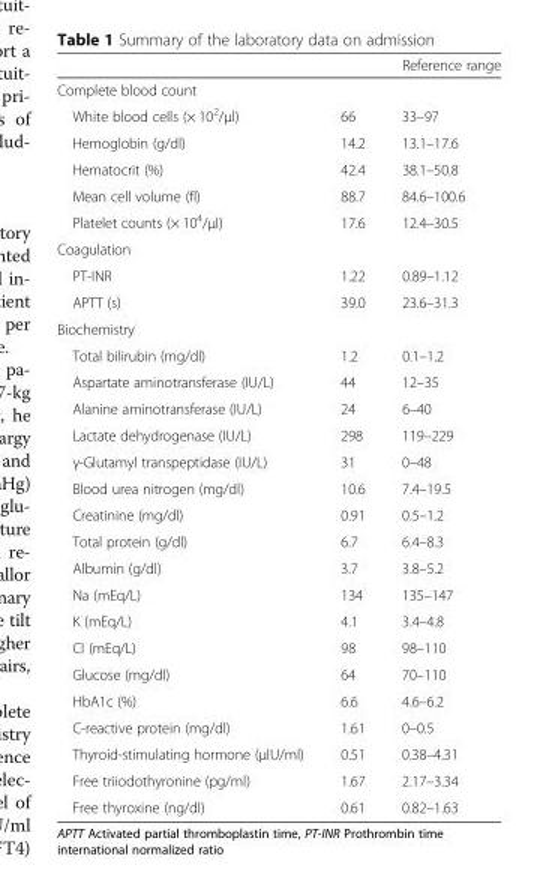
<table><thead><tr><td></td><td></td><td>Reference range</td></tr></thead><tbody><tr><td colspan="3">Complete blood count</td></tr><tr><td>White blood cells (× 10<sup>2</sup>/μl)</td><td>66</td><td>33–97</td></tr><tr><td>Hemoglobin (g/dl)</td><td>14.2</td><td>13.1–17.6</td></tr><tr><td>Hematocrit (%)</td><td>42.4</td><td>38.1–50.8</td></tr><tr><td>Mean cell volume (fl)</td><td>88.7</td><td>84.6–100.6</td></tr><tr><td>Platelet counts (× 10<sup>4</sup>/μl)</td><td>17.6</td><td>12.4–30.5</td></tr><tr><td colspan="3">Coagulation</td></tr><tr><td>PT-INR</td><td>1.22</td><td>0.89–1.12</td></tr><tr><td>APTT (s)</td><td>39.0</td><td>23.6–31.3</td></tr><tr><td colspan="3">Biochemistry</td></tr><tr><td>Total bilirubin (mg/dl)</td><td>1.2</td><td>0.1–1.2</td></tr><tr><td>Aspartate aminotransferase (IU/L)</td><td>44</td><td>12–35</td></tr><tr><td>Alanine aminotransferase (IU/L)</td><td>24</td><td>6–40</td></tr><tr><td>Lactate dehydrogenase (IU/L)</td><td>298</td><td>119–229</td></tr><tr><td>γ-Glutamyl transpeptidase (IU/L)</td><td>31</td><td>0–48</td></tr><tr><td>Blood urea nitrogen (mg/dl)</td><td>10.6</td><td>7.4–19.5</td></tr><tr><td>Creatinine (mg/dl)</td><td>0.91</td><td>0.5–1.2</td></tr><tr><td>Total protein (g/dl)</td><td>6.7</td><td>6.4–8.3</td></tr><tr><td>Albumin (g/dl)</td><td>3.7</td><td>3.8–5.2</td></tr><tr><td>Na (mEq/L)</td><td>134</td><td>135–147</td></tr><tr><td>K (mEq/L)</td><td>4.1</td><td>3.4–4.8</td></tr><tr><td>Cl (mEq/L)</td><td>98</td><td>98–110</td></tr><tr><td>Glucose (mg/dl)</td><td>64</td><td>70–110</td></tr><tr><td>HbA1c (%)</td><td>6.6</td><td>4.6–6.2</td></tr><tr><td>C-reactive protein (mg/dl)</td><td>1.61</td><td>0–0.5</td></tr><tr><td>Thyroid-stimulating hormone (μIU/ml)</td><td>0.51</td><td>0.38–4.31</td></tr><tr><td>Free triiodothyronine (pg/ml)</td><td>1.67</td><td>2.17–3.34</td></tr><tr><td>Free thyroxine (ng/dl)</td><td>0.61</td><td>0.82–1.63</td></tr></tbody></table>